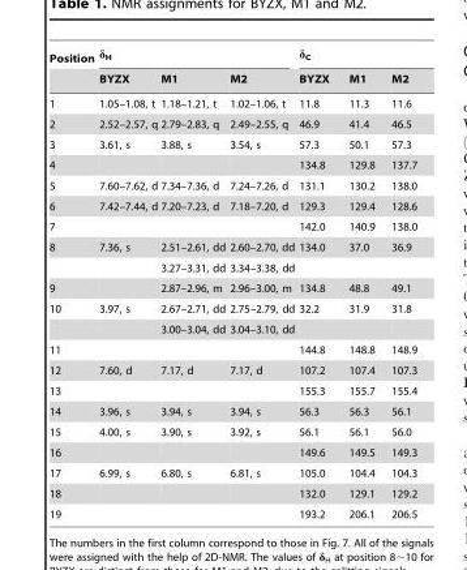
<table><thead><tr><td rowspan="2">Position</td><td colspan="3">δ<sub>H</sub></td><td colspan="3">δ<sub>C</sub></td></tr><tr><td>BYZX</td><td>M1</td><td>M2</td><td>BYZX</td><td>M1</td><td>M2</td></tr></thead><tbody><tr><td>1</td><td>1.05–1.08, t</td><td>1.18–1.21, t</td><td>1.02–1.06, t</td><td>11.8</td><td>11.3</td><td>11.6</td></tr><tr><td>2</td><td>2.52–2.57, q</td><td>2.79–2.83, q</td><td>2.49–2.55, q</td><td>46.9</td><td>41.4</td><td>46.5</td></tr><tr><td>3</td><td>3.61, s</td><td>3.88, s</td><td>3.54, s</td><td>57.3</td><td>50.1</td><td>57.3</td></tr><tr><td>4</td><td></td><td></td><td></td><td>134.8</td><td>129.8</td><td>137.7</td></tr><tr><td>5</td><td>7.60–7.62, d</td><td>7.34–7.36, d</td><td>7.24–7.26, d</td><td>131.1</td><td>130.2</td><td>138.0</td></tr><tr><td>6</td><td>7.42–7.44, d</td><td>7.20–7.23, d</td><td>7.18–7.20, d</td><td>129.3</td><td>129.4</td><td>128.6</td></tr><tr><td>7</td><td></td><td></td><td></td><td>142.0</td><td>140.9</td><td>138.0</td></tr><tr><td rowspan="2">8</td><td>7.36, s</td><td>2.51–2.61, dd</td><td>2.60–2.70, dd</td><td>134.0</td><td>37.0</td><td>36.9</td></tr><tr><td></td><td>3.27–3.31, dd</td><td>3.34–3.38, dd</td><td></td><td></td><td></td></tr><tr><td>9</td><td></td><td>2.87–2.96, m</td><td>2.96–3.00, m</td><td>134.8</td><td>48.8</td><td>49.1</td></tr><tr><td rowspan="2">10</td><td>3.97, s</td><td>2.67–2.71, dd</td><td>2.75–2.79, dd</td><td>32.2</td><td>31.9</td><td>31.8</td></tr><tr><td></td><td>3.00–3.04, dd</td><td>3.04–3.10, dd</td><td></td><td></td><td></td></tr><tr><td>11</td><td></td><td></td><td></td><td>144.8</td><td>148.8</td><td>148.9</td></tr><tr><td>12</td><td>7.60, d</td><td>7.17, d</td><td>7.17, d</td><td>107.2</td><td>107.4</td><td>107.3</td></tr><tr><td>13</td><td></td><td></td><td></td><td>155.3</td><td>155.7</td><td>155.4</td></tr><tr><td>14</td><td>3.96, s</td><td>3.94, s</td><td>3.94, s</td><td>56.3</td><td>56.3</td><td>56.1</td></tr><tr><td>15</td><td>4.00, s</td><td>3.90, s</td><td>3.92, s</td><td>56.1</td><td>56.1</td><td>56.0</td></tr><tr><td>16</td><td></td><td></td><td></td><td>149.6</td><td>149.5</td><td>149.3</td></tr><tr><td>17</td><td>6.99, s</td><td>6.80, s</td><td>6.81, s</td><td>105.0</td><td>104.4</td><td>104.3</td></tr><tr><td>18</td><td></td><td></td><td></td><td>132.0</td><td>129.1</td><td>129.2</td></tr><tr><td>19</td><td></td><td></td><td></td><td>193.2</td><td>206.1</td><td>206.5</td></tr></tbody></table>